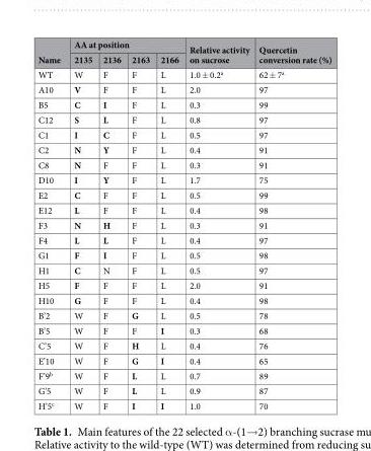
<table><thead><tr><td rowspan="2">Name</td><td colspan="4">AA at position</td><td rowspan="2">Relative activity on sucrose</td><td rowspan="2">Quercetin conversion rate (%)</td></tr><tr><td>2135</td><td>2136</td><td>2163</td><td>2166</td></tr></thead><tbody><tr><td>WT</td><td>W</td><td>F</td><td>F</td><td>L</td><td>1.0 ± 0.2<sup>a</sup></td><td>62 ± 7<sup>a</sup></td></tr><tr><td>A10</td><td>V</td><td>F</td><td>F</td><td>L</td><td>2.0</td><td>97</td></tr><tr><td>B5</td><td>C</td><td>I</td><td>F</td><td>L</td><td>0.3</td><td>99</td></tr><tr><td>C12</td><td>S</td><td>L</td><td>F</td><td>L</td><td>0.8</td><td>97</td></tr><tr><td>C1</td><td>I</td><td>C</td><td>F</td><td>L</td><td>0.5</td><td>97</td></tr><tr><td>C2</td><td>N</td><td>Y</td><td>F</td><td>L</td><td>0.4</td><td>91</td></tr><tr><td>C8</td><td>N</td><td>F</td><td>F</td><td>L</td><td>0.3</td><td>91</td></tr><tr><td>D10</td><td>I</td><td>Y</td><td>F</td><td>L</td><td>1.7</td><td>75</td></tr><tr><td>E2</td><td>C</td><td>F</td><td>F</td><td>L</td><td>0.5</td><td>99</td></tr><tr><td>E12</td><td>L</td><td>F</td><td>F</td><td>L</td><td>0.4</td><td>98</td></tr><tr><td>F3</td><td>N</td><td>H</td><td>F</td><td>L</td><td>0.3</td><td>91</td></tr><tr><td>F4</td><td>L</td><td>L</td><td>F</td><td>L</td><td>0.4</td><td>97</td></tr><tr><td>G1</td><td>F</td><td>I</td><td>F</td><td>L</td><td>0.5</td><td>98</td></tr><tr><td>H1</td><td>C</td><td>N</td><td>F</td><td>L</td><td>0.5</td><td>97</td></tr><tr><td>H5</td><td>F</td><td>F</td><td>F</td><td>L</td><td>2.0</td><td>91</td></tr><tr><td>H10</td><td>G</td><td>F</td><td>F</td><td>L</td><td>0.4</td><td>98</td></tr><tr><td>B’2</td><td>W</td><td>F</td><td>G</td><td>L</td><td>0.5</td><td>78</td></tr><tr><td>B’5</td><td>W</td><td>F</td><td>F</td><td>I</td><td>0.3</td><td>68</td></tr><tr><td>C’5</td><td>W</td><td>F</td><td>H</td><td>L</td><td>0.4</td><td>76</td></tr><tr><td>E’10</td><td>W</td><td>F</td><td>G</td><td>I</td><td>0.4</td><td>65</td></tr><tr><td>F’9<sup>b</sup></td><td>W</td><td>F</td><td>L</td><td>L</td><td>0.7</td><td>89</td></tr><tr><td>G’5</td><td>W</td><td>F</td><td>L</td><td>L</td><td>0.9</td><td>87</td></tr><tr><td>H’5<sup>c</sup></td><td>W</td><td>F</td><td>I</td><td>I</td><td>1.0</td><td>70</td></tr></tbody></table>